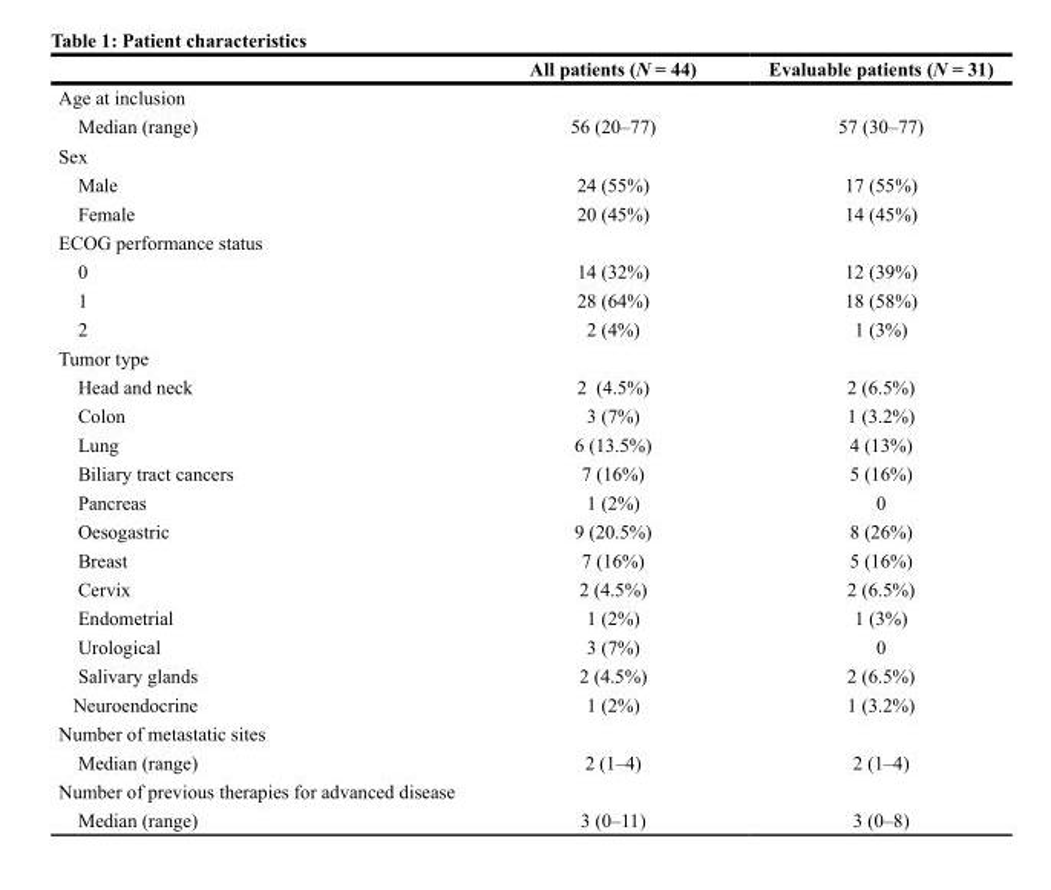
<table><thead><tr><td></td><td>All patients (N = 44)</td><td>Evaluable patients (N = 31)</td></tr></thead><tbody><tr><td colspan="3">Age at inclusion</td></tr><tr><td>Median (range)</td><td>56 (20–77)</td><td>57 (30–77)</td></tr><tr><td colspan="3">Sex</td></tr><tr><td>Male</td><td>24 (55%)</td><td>17 (55%)</td></tr><tr><td>Female</td><td>20 (45%)</td><td>14 (45%)</td></tr><tr><td colspan="3">ECOG performance status</td></tr><tr><td>0</td><td>14 (32%)</td><td>12 (39%)</td></tr><tr><td>1</td><td>28 (64%)</td><td>18 (58%)</td></tr><tr><td>2</td><td>2 (4%)</td><td>1 (3%)</td></tr><tr><td colspan="3">Tumor type</td></tr><tr><td>Head and neck</td><td>2 (4.5%)</td><td>2 (6.5%)</td></tr><tr><td>Colon</td><td>3 (7%)</td><td>1 (3.2%)</td></tr><tr><td>Lung</td><td>6 (13.5%)</td><td>4 (13%)</td></tr><tr><td>Biliary tract cancers</td><td>7 (16%)</td><td>5 (16%)</td></tr><tr><td>Pancreas</td><td>1 (2%)</td><td>0</td></tr><tr><td>Oesogastric</td><td>9 (20.5%)</td><td>8 (26%)</td></tr><tr><td>Breast</td><td>7 (16%)</td><td>5 (16%)</td></tr><tr><td>Cervix</td><td>2 (4.5%)</td><td>2 (6.5%)</td></tr><tr><td>Endometrial</td><td>1 (2%)</td><td>1 (3%)</td></tr><tr><td>Urological</td><td>3 (7%)</td><td>0</td></tr><tr><td>Salivary glands</td><td>2 (4.5%)</td><td>2 (6.5%)</td></tr><tr><td>Neuroendocrine</td><td>1 (2%)</td><td>1 (3.2%)</td></tr><tr><td colspan="3">Number of metastatic sites</td></tr><tr><td>Median (range)</td><td>2 (1–4)</td><td>2 (1–4)</td></tr><tr><td colspan="3">Number of previous therapies for advanced disease</td></tr><tr><td>Median (range)</td><td>3 (0–11)</td><td>3 (0–8)</td></tr></tbody></table>